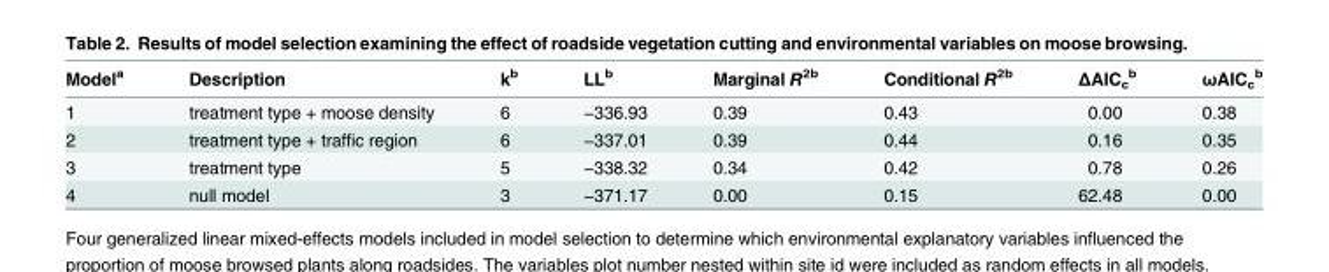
<table><thead><tr><td>Model<sup>a</sup></td><td>Description</td><td>k<sup>b</sup></td><td>LL<sup>b</sup></td><td>Marginal R<sup>2b</sup></td><td>Conditional R<sup>2b</sup></td><td>ΔAIC<sub>c</sub> <sup>b</sup></td><td>ωAIC<sub>c</sub> <sup>b</sup></td></tr></thead><tbody><tr><td>1</td><td>treatment type + moose density</td><td>6</td><td>−336.93</td><td>0.39</td><td>0.43</td><td>0.00</td><td>0.38</td></tr><tr><td>2</td><td>treatment type + traffic region</td><td>6</td><td>−337.01</td><td>0.39</td><td>0.44</td><td>0.16</td><td>0.35</td></tr><tr><td>3</td><td>treatment type</td><td>5</td><td>−338.32</td><td>0.34</td><td>0.42</td><td>0.78</td><td>0.26</td></tr><tr><td>4</td><td>null model</td><td>3</td><td>−371.17</td><td>0.00</td><td>0.15</td><td>62.48</td><td>0.00</td></tr></tbody></table>